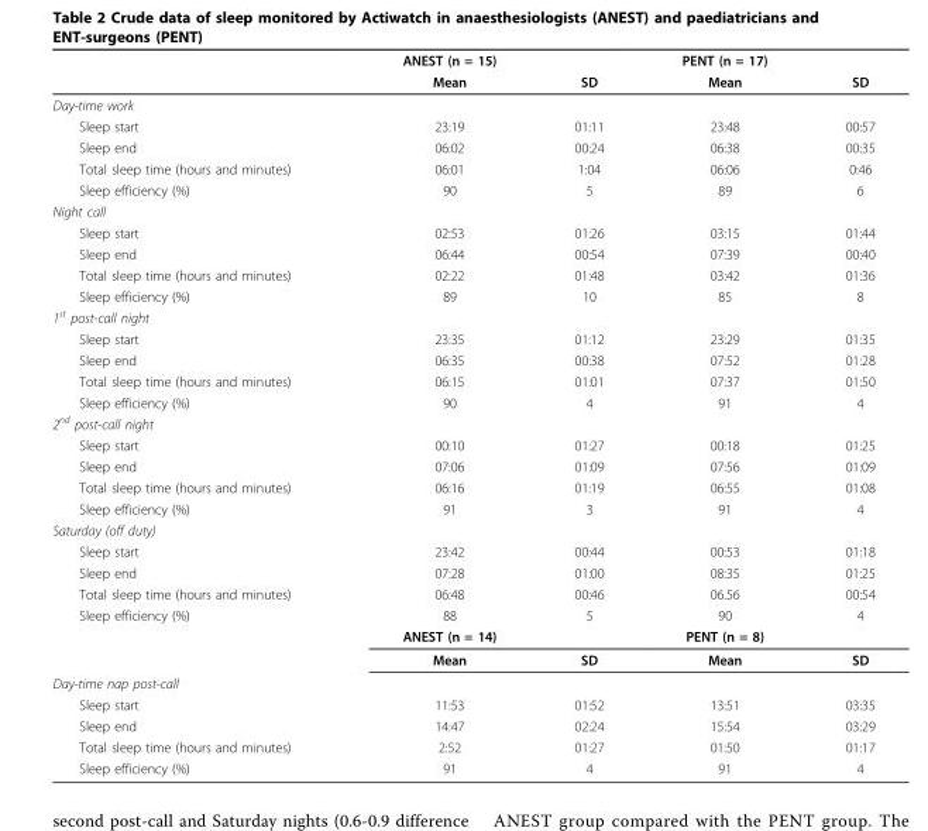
<table><thead><tr><td rowspan="2"></td><td rowspan="2">ANEST (n = 15) Mean</td><td rowspan="2">SD</td><td rowspan="2">PENT (n = 17) Mean</td><td rowspan="2">SD</td></tr><tr></tr></thead><tbody><tr><td colspan="5">Day-time work</td></tr><tr><td>Sleep start</td><td>23:19</td><td>01:11</td><td>23:48</td><td>00:57</td></tr><tr><td>Sleep end</td><td>06:02</td><td>00:24</td><td>06:38</td><td>00:35</td></tr><tr><td>Total sleep time (hours and minutes)</td><td>06:01</td><td>1:04</td><td>06:06</td><td>0:46</td></tr><tr><td>Sleep efficiency (%)</td><td>90</td><td>5</td><td>89</td><td>6</td></tr><tr><td colspan="5">Night call</td></tr><tr><td>Sleep start</td><td>02:53</td><td>01:26</td><td>03:15</td><td>01:44</td></tr><tr><td>Sleep end</td><td>06:44</td><td>00:54</td><td>07:39</td><td>00:40</td></tr><tr><td>Total sleep time (hours and minutes)</td><td>02:22</td><td>01:48</td><td>03:42</td><td>01:36</td></tr><tr><td>Sleep efficiency (%)</td><td>89</td><td>10</td><td>85</td><td>8</td></tr><tr><td colspan="5">1<sup>st</sup> post-call night</td></tr><tr><td>Sleep start</td><td>23:35</td><td>01:12</td><td>23:29</td><td>01:35</td></tr><tr><td>Sleep end</td><td>06:35</td><td>00:38</td><td>07:52</td><td>01:28</td></tr><tr><td>Total sleep time (hours and minutes)</td><td>06:15</td><td>01:01</td><td>07:37</td><td>01:50</td></tr><tr><td>Sleep efficiency (%)</td><td>90</td><td>4</td><td>91</td><td>4</td></tr><tr><td colspan="5">2<sup>nd</sup> post-call night</td></tr><tr><td>Sleep start</td><td>00:10</td><td>01:27</td><td>00:18</td><td>01:25</td></tr><tr><td>Sleep end</td><td>07:06</td><td>01:09</td><td>07:56</td><td>01:09</td></tr><tr><td>Total sleep time (hours and minutes)</td><td>06:16</td><td>01:19</td><td>06:55</td><td>01:08</td></tr><tr><td>Sleep efficiency (%)</td><td>91</td><td>3</td><td>91</td><td>4</td></tr><tr><td colspan="5">Saturday (off duty)</td></tr><tr><td>Sleep start</td><td>23:42</td><td>00:44</td><td>00:53</td><td>01:18</td></tr><tr><td>Sleep end</td><td>07:28</td><td>01:00</td><td>08:35</td><td>01:25</td></tr><tr><td>Total sleep time (hours and minutes)</td><td>06:48</td><td>00:46</td><td>06.56</td><td>00:54</td></tr><tr><td rowspan="3">Sleep efficiency (%)</td><td>88</td><td>5</td><td>90</td><td>4</td></tr><tr><td>ANEST (n = 14)</td><td></td><td>PENT (n = 8)</td><td></td></tr><tr><td>Mean</td><td>SD</td><td>Mean</td><td>SD</td></tr><tr><td colspan="5">Day-time nap post-call</td></tr><tr><td>Sleep start</td><td>11:53</td><td>01:52</td><td>13:51</td><td>03:35</td></tr><tr><td>Sleep end</td><td>14:47</td><td>02:24</td><td>15:54</td><td>03:29</td></tr><tr><td>Total sleep time (hours and minutes)</td><td>2:52</td><td>01:27</td><td>01:50</td><td>01:17</td></tr><tr><td>Sleep efficiency (%)</td><td>91</td><td>4</td><td>91</td><td>4</td></tr></tbody></table>